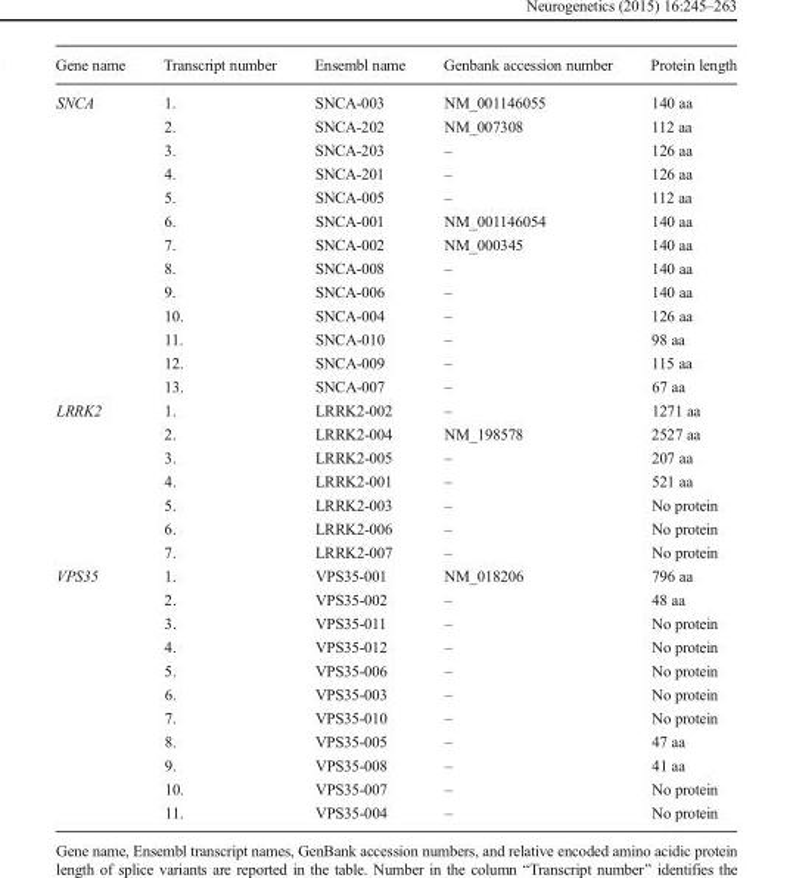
<table><thead><tr><td>Gene name</td><td>Transcript number</td><td>Ensembl name</td><td>Genbank accession number</td><td>Protein length</td></tr></thead><tbody><tr><td rowspan="13">SNCA</td><td>1.</td><td>SNCA-003</td><td>NM_001146055</td><td>140 aa</td></tr><tr><td>2.</td><td>SNCA-202</td><td>NM_007308</td><td>112 aa</td></tr><tr><td>3.</td><td>SNCA-203</td><td>–</td><td>126 aa</td></tr><tr><td>4.</td><td>SNCA-201</td><td>–</td><td>126 aa</td></tr><tr><td>5.</td><td>SNCA-005</td><td>–</td><td>112 aa</td></tr><tr><td>6.</td><td>SNCA-001</td><td>NM_001146054</td><td>140 aa</td></tr><tr><td>7.</td><td>SNCA-002</td><td>NM_000345</td><td>140 aa</td></tr><tr><td>8.</td><td>SNCA-008</td><td>–</td><td>140 aa</td></tr><tr><td>9.</td><td>SNCA-006</td><td>–</td><td>140 aa</td></tr><tr><td>10.</td><td>SNCA-004</td><td>–</td><td>126 aa</td></tr><tr><td>11.</td><td>SNCA-010</td><td>–</td><td>98 aa</td></tr><tr><td>12.</td><td>SNCA-009</td><td>–</td><td>115 aa</td></tr><tr><td>13.</td><td>SNCA-007</td><td>–</td><td>67 aa</td></tr><tr><td rowspan="7">LRRK2</td><td>1.</td><td>LRRK2-002</td><td>–</td><td>1271 aa</td></tr><tr><td>2.</td><td>LRRK2-004</td><td>NM_198578</td><td>2527 aa</td></tr><tr><td>3.</td><td>LRRK2-005</td><td>–</td><td>207 aa</td></tr><tr><td>4.</td><td>LRRK2-001</td><td>–</td><td>521 aa</td></tr><tr><td>5.</td><td>LRRK2-003</td><td>–</td><td>No protein</td></tr><tr><td>6.</td><td>LRRK2-006</td><td>–</td><td>No protein</td></tr><tr><td>7.</td><td>LRRK2-007</td><td>–</td><td>No protein</td></tr><tr><td rowspan="11">VPS35</td><td>1.</td><td>VPS35-001</td><td>NM_018206</td><td>796 aa</td></tr><tr><td>2.</td><td>VPS35-002</td><td>–</td><td>48 aa</td></tr><tr><td>3.</td><td>VPS35-011</td><td>–</td><td>No protein</td></tr><tr><td>4.</td><td>VPS35-012</td><td>–</td><td>No protein</td></tr><tr><td>5.</td><td>VPS35-006</td><td>–</td><td>No protein</td></tr><tr><td>6.</td><td>VPS35-003</td><td>–</td><td>No protein</td></tr><tr><td>7.</td><td>VPS35-010</td><td>–</td><td>No protein</td></tr><tr><td>8.</td><td>VPS35-005</td><td>–</td><td>47 aa</td></tr><tr><td>9.</td><td>VPS35-008</td><td>–</td><td>41 aa</td></tr><tr><td>10.</td><td>VPS35-007</td><td>–</td><td>No protein</td></tr><tr><td>11.</td><td>VPS35-004</td><td>–</td><td>No protein</td></tr></tbody></table>